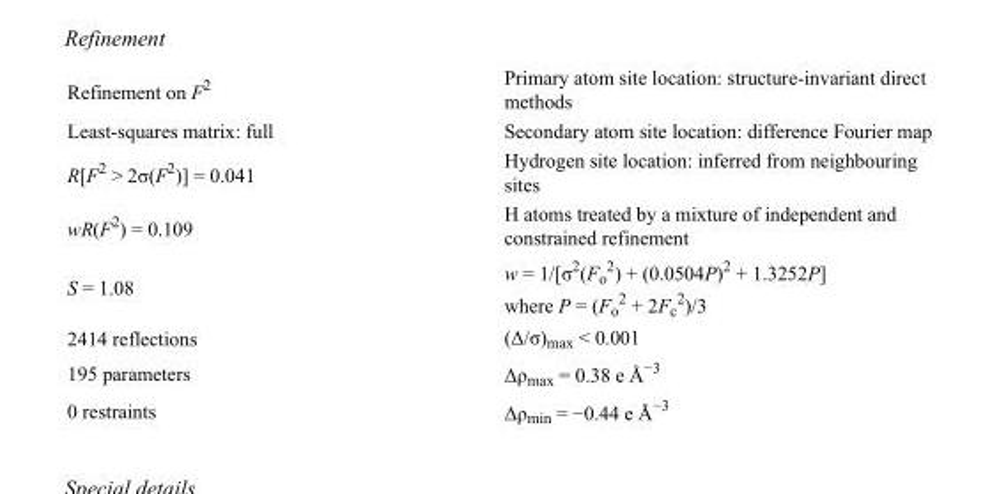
<table><tbody><tr><td>Refinement on F<sup>2</sup></td><td>Primary atom site location: structure-invariant direct methods</td></tr><tr><td>Least-squares matrix: full</td><td>Secondary atom site location: difference Fourier map</td></tr><tr><td>R[F<sup>2</sup> &gt; 2σ(F<sup>2</sup>)] = 0.041</td><td>Hydrogen site location: inferred from neighbouring sites</td></tr><tr><td>wR(F<sup>2</sup>) = 0.109</td><td>H atoms treated by a mixture of independent and constrained refinement</td></tr><tr><td>S = 1.08</td><td>w = 1/[σ<sup>2</sup>(F<sub>o</sub> <sup>2</sup>) + (0.0504P)<sup>2</sup> + 1.3252P] where P = (F<sub>o</sub> <sup>2</sup> + 2F<sub>c</sub> <sup>2</sup>)/3</td></tr><tr><td>2414 reflections</td><td>(Δ/σ)<sub>max</sub> &lt; 0.001</td></tr><tr><td>195 parameters</td><td>Δρ<sub>max</sub> = 0.38 e Å<sup>−3</sup></td></tr><tr><td>0 restraints</td><td>Δρ<sub>min</sub> = −0.44 e Å<sup>−3</sup></td></tr></tbody></table>